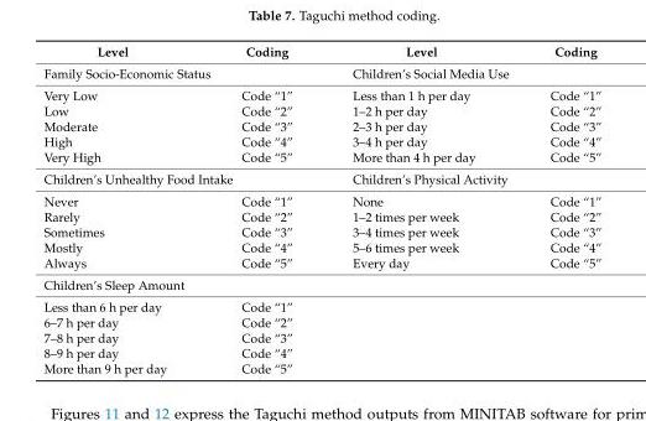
<table><thead><tr><td>Level</td><td>Coding</td><td>Level</td><td>Coding</td></tr></thead><tbody><tr><td colspan="2">Family Socio-Economic Status</td><td colspan="2">Children’s Social Media Use</td></tr><tr><td>Very Low</td><td>Code “1”</td><td>Less than 1 h per day</td><td>Code “1”</td></tr><tr><td>Low</td><td>Code “2”</td><td>1–2 h per day</td><td>Code “2”</td></tr><tr><td>Moderate</td><td>Code “3”</td><td>2–3 h per day</td><td>Code “3”</td></tr><tr><td>High</td><td>Code “4”</td><td>3–4 h per day</td><td>Code “4”</td></tr><tr><td>Very High</td><td>Code “5”</td><td>More than 4 h per day</td><td>Code “5”</td></tr><tr><td colspan="2">Children’s Unhealthy Food Intake</td><td colspan="2">Children’s Physical Activity</td></tr><tr><td>Never</td><td>Code “1”</td><td>None</td><td>Code “1”</td></tr><tr><td>Rarely</td><td>Code “2”</td><td>1–2 times per week</td><td>Code “2”</td></tr><tr><td>Sometimes</td><td>Code “3”</td><td>3–4 times per week</td><td>Code “3”</td></tr><tr><td>Mostly</td><td>Code “4”</td><td>5–6 times per week</td><td>Code “4”</td></tr><tr><td>Always</td><td>Code “5”</td><td>Every day</td><td>Code “5”</td></tr><tr><td colspan="4">Children’s Sleep Amount</td></tr><tr><td>Less than 6 h per day</td><td>Code “1”</td><td></td><td></td></tr><tr><td>6–7 h per day</td><td>Code “2”</td><td></td><td></td></tr><tr><td>7–8 h per day</td><td>Code “3”</td><td></td><td></td></tr><tr><td>8–9 h per day</td><td>Code “4”</td><td></td><td></td></tr><tr><td>More than 9 h per day</td><td>Code “5”</td><td></td><td></td></tr></tbody></table>